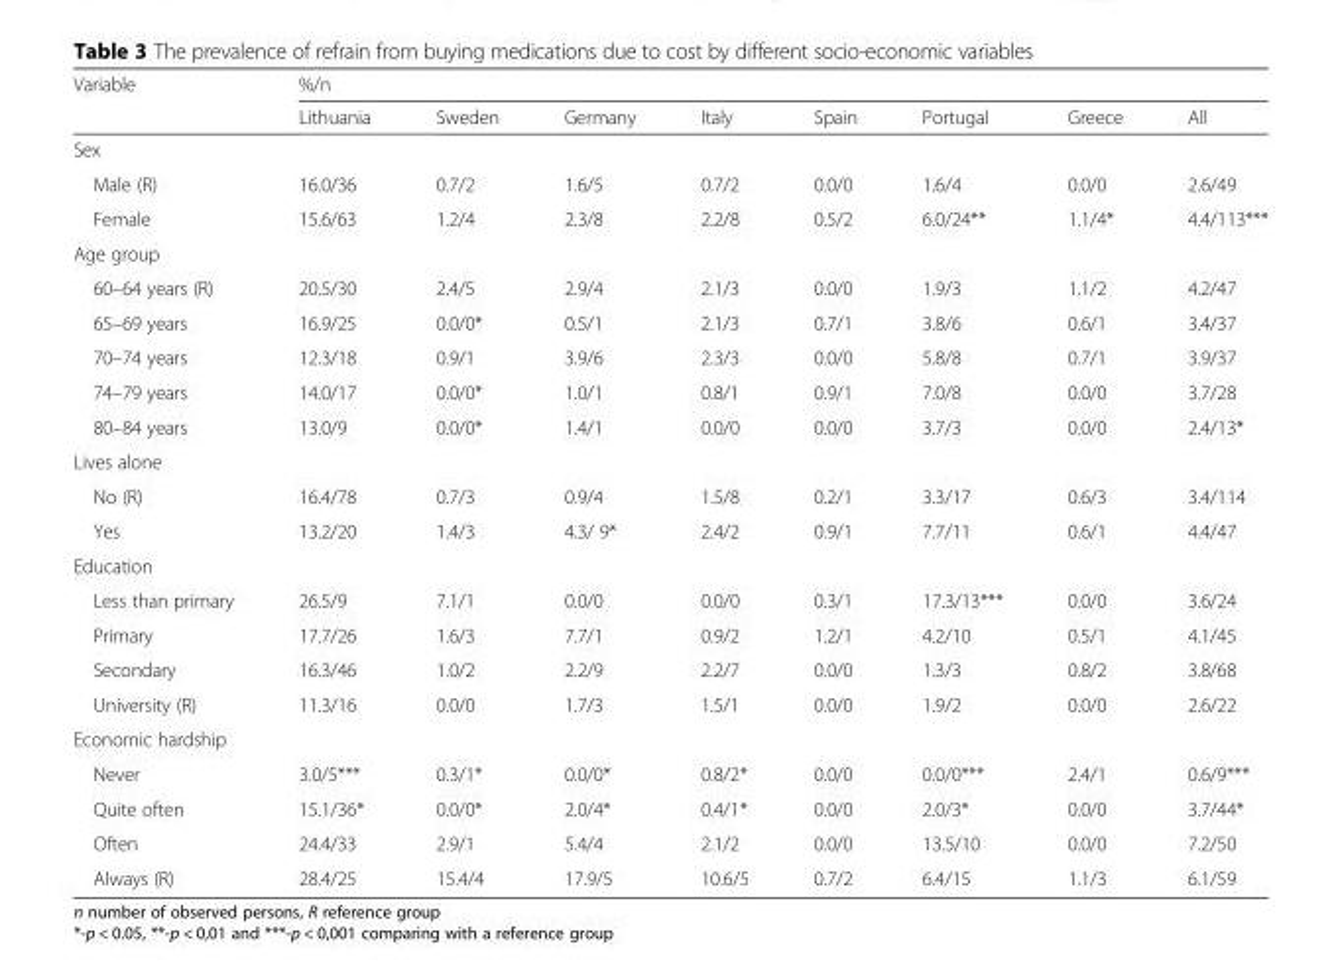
<table><thead><tr><td rowspan="2">Variable</td><td colspan="8">%/n</td></tr><tr><td>Lithuania</td><td>Sweden</td><td>Germany</td><td>Italy</td><td>Spain</td><td>Portugal</td><td>Greece</td><td>All</td></tr></thead><tbody><tr><td colspan="9">Sex</td></tr><tr><td>Male (R)</td><td>16.0/36</td><td>0.7/2</td><td>1.6/5</td><td>0.7/2</td><td>0.0/0</td><td>1.6/4</td><td>0.0/0</td><td>2.6/49</td></tr><tr><td>Female</td><td>15.6/63</td><td>1.2/4</td><td>2.3/8</td><td>2.2/8</td><td>0.5/2</td><td>6.0/24**</td><td>1.1/4*</td><td>4.4/113***</td></tr><tr><td colspan="9">Age group</td></tr><tr><td>60–64 years (R)</td><td>20.5/30</td><td>2.4/5</td><td>2.9/4</td><td>2.1/3</td><td>0.0/0</td><td>1.9/3</td><td>1.1/2</td><td>4.2/47</td></tr><tr><td>65–69 years</td><td>16.9/25</td><td>0.0/0*</td><td>0.5/1</td><td>2.1/3</td><td>0.7/1</td><td>3.8/6</td><td>0.6/1</td><td>3.4/37</td></tr><tr><td>70–74 years</td><td>12.3/18</td><td>0.9/1</td><td>3.9/6</td><td>2.3/3</td><td>0.0/0</td><td>5.8/8</td><td>0.7/1</td><td>3.9/37</td></tr><tr><td>74–79 years</td><td>14.0/17</td><td>0.0/0*</td><td>1.0/1</td><td>0.8/1</td><td>0.9/1</td><td>7.0/8</td><td>0.0/0</td><td>3.7/28</td></tr><tr><td>80–84 years</td><td>13.0/9</td><td>0.0/0*</td><td>1.4/1</td><td>0.0/0</td><td>0.0/0</td><td>3.7/3</td><td>0.0/0</td><td>2.4/13*</td></tr><tr><td colspan="9">Lives alone</td></tr><tr><td>No (R)</td><td>16.4/78</td><td>0.7/3</td><td>0.9/4</td><td>1.5/8</td><td>0.2/1</td><td>3.3/17</td><td>0.6/3</td><td>3.4/114</td></tr><tr><td>Yes</td><td>13.2/20</td><td>1.4/3</td><td>4.3/ 9*</td><td>2.4/2</td><td>0.9/1</td><td>7.7/11</td><td>0.6/1</td><td>4.4/47</td></tr><tr><td colspan="9">Education</td></tr><tr><td>Less than primary</td><td>26.5/9</td><td>7.1/1</td><td>0.0/0</td><td>0.0/0</td><td>0.3/1</td><td>17.3/13***</td><td>0.0/0</td><td>3.6/24</td></tr><tr><td>Primary</td><td>17.7/26</td><td>1.6/3</td><td>7.7/1</td><td>0.9/2</td><td>1.2/1</td><td>4.2/10</td><td>0.5/1</td><td>4.1/45</td></tr><tr><td>Secondary</td><td>16.3/46</td><td>1.0/2</td><td>2.2/9</td><td>2.2/7</td><td>0.0/0</td><td>1.3/3</td><td>0.8/2</td><td>3.8/68</td></tr><tr><td>University (R)</td><td>11.3/16</td><td>0.0/0</td><td>1.7/3</td><td>1.5/1</td><td>0.0/0</td><td>1.9/2</td><td>0.0/0</td><td>2.6/22</td></tr><tr><td colspan="9">Economic hardship</td></tr><tr><td>Never</td><td>3.0/5***</td><td>0.3/1*</td><td>0.0/0*</td><td>0.8/2*</td><td>0.0/0</td><td>0.0/0***</td><td>2.4/1</td><td>0.6/9***</td></tr><tr><td>Quite often</td><td>15.1/36*</td><td>0.0/0*</td><td>2.0/4*</td><td>0.4/1*</td><td>0.0/0</td><td>2.0/3*</td><td>0.0/0</td><td>3.7/44*</td></tr><tr><td>Often</td><td>24.4/33</td><td>2.9/1</td><td>5.4/4</td><td>2.1/2</td><td>0.0/0</td><td>13.5/10</td><td>0.0/0</td><td>7.2/50</td></tr><tr><td>Always (R)</td><td>28.4/25</td><td>15.4/4</td><td>17.9/5</td><td>10.6/5</td><td>0.7/2</td><td>6.4/15</td><td>1.1/3</td><td>6.1/59</td></tr></tbody></table>